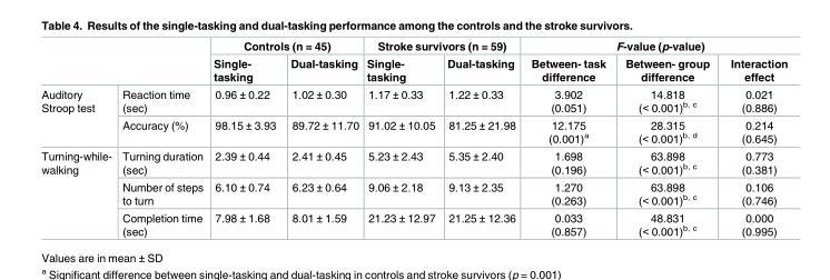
<table><thead><tr><td rowspan="2"></td><td rowspan="2"></td><td colspan="2">Controls (n = 45)</td><td colspan="2">Stroke survivors (n = 59)</td><td colspan="3">F-value (p-value)</td></tr><tr><td>Single- tasking</td><td>Dual-tasking</td><td>Single- tasking</td><td>Dual-tasking</td><td>Between- task difference</td><td>Between- group difference</td><td>Interaction effect</td></tr></thead><tbody><tr><td rowspan="2">Auditory Stroop test</td><td>Reaction time (sec)</td><td>0.96 ± 0.22</td><td>1.02 ± 0.30</td><td>1.17 ± 0.33</td><td>1.22 ± 0.33</td><td>3.902 (0.051)</td><td>14.818 (&lt; 0.001)<sup>b, c</sup></td><td>0.021 (0.886)</td></tr><tr><td>Accuracy (%)</td><td>98.15 ± 3.93</td><td>89.72 ± 11.70</td><td>91.02 ± 10.05</td><td>81.25 ± 21.98</td><td>12.175 (0.001)<sup>a</sup></td><td>28.315 (&lt; 0.001)<sup>b, d</sup></td><td>0.214 (0.645)</td></tr><tr><td rowspan="3">Turning-while- walking</td><td>Turning duration (sec)</td><td>2.39 ± 0.44</td><td>2.41 ± 0.45</td><td>5.23 ± 2.43</td><td>5.35 ± 2.40</td><td>1.698 (0.196)</td><td>63.898 (&lt; 0.001)<sup>b, c</sup></td><td>0.773 (0.381)</td></tr><tr><td>Number of steps to turn</td><td>6.10 ± 0.74</td><td>6.23 ± 0.64</td><td>9.06 ± 2.18</td><td>9.13 ± 2.35</td><td>1.270 (0.263)</td><td>63.898 (&lt; 0.001)<sup>b, c</sup></td><td>0.106 (0.746)</td></tr><tr><td>Completion time (sec)</td><td>7.98 ± 1.68</td><td>8.01 ± 1.59</td><td>21.23 ± 12.97</td><td>21.25 ± 12.36</td><td>0.033 (0.857)</td><td>48.831 (&lt; 0.001)<sup>b, c</sup></td><td>0.000 (0.995)</td></tr></tbody></table>